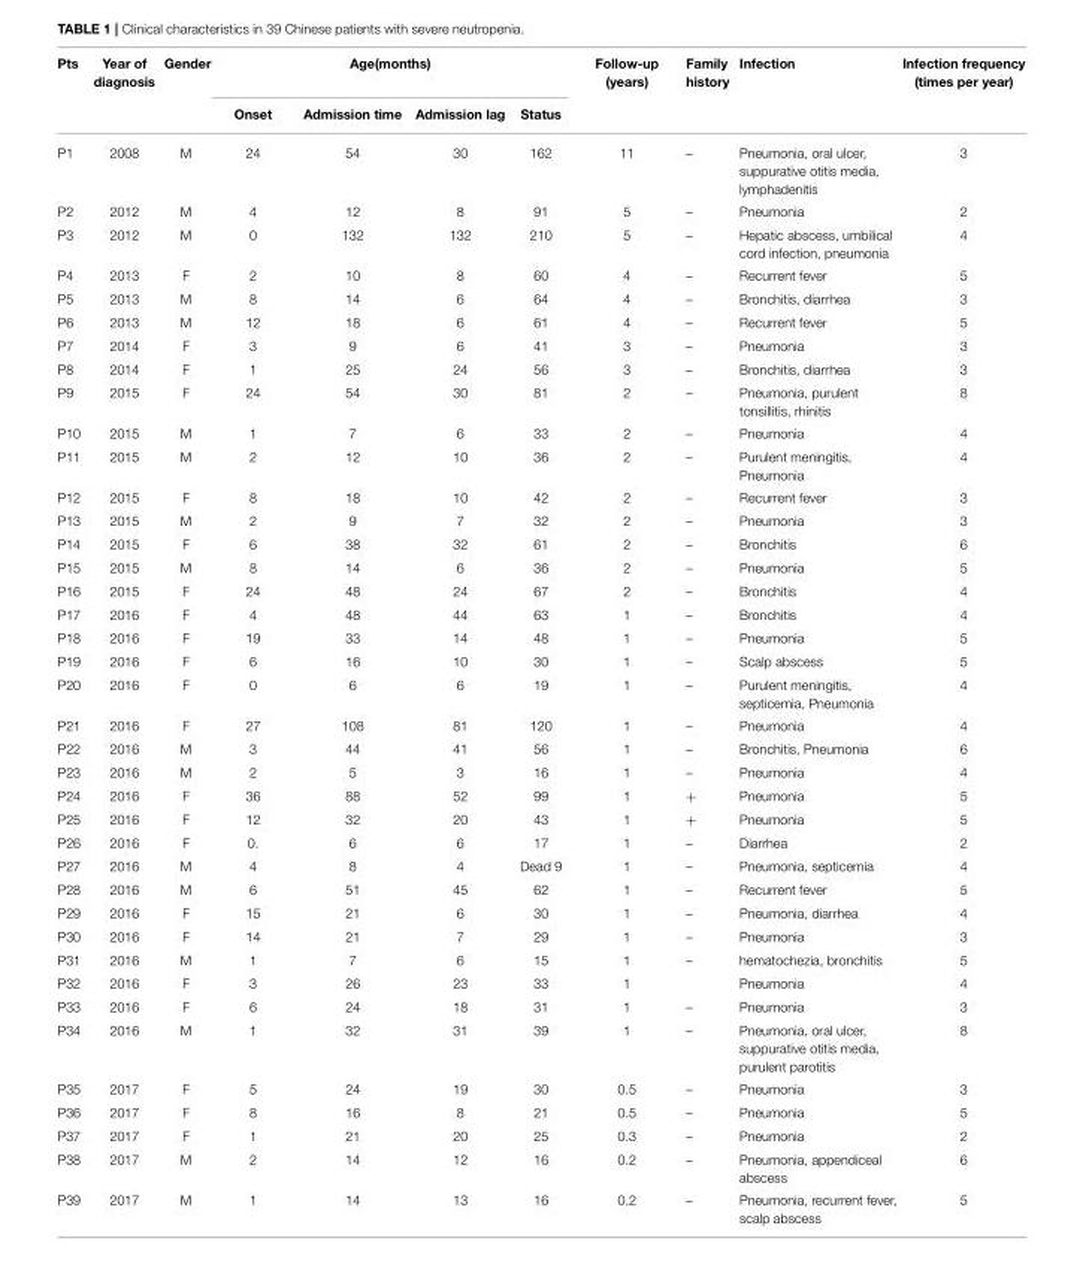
<table><thead><tr><td rowspan="2">Pts</td><td rowspan="2">Year of diagnosis</td><td rowspan="2">Gender</td><td colspan="4">Age(months)</td><td rowspan="2">Follow-up (years)</td><td rowspan="2">Family history</td><td rowspan="2">Infection</td><td rowspan="2">Infection frequency (times per year)</td></tr><tr><td>Onset</td><td>Admission time</td><td>Admission lag</td><td>Status</td></tr></thead><tbody><tr><td>P1</td><td>2008</td><td>M</td><td>24</td><td>54</td><td>30</td><td>162</td><td>11</td><td>–</td><td>Pneumonia, oral ulcer, suppurative otitis media, lymphadenitis</td><td>3</td></tr><tr><td>P2</td><td>2012</td><td>M</td><td>4</td><td>12</td><td>8</td><td>91</td><td>5</td><td>–</td><td>Pneumonia</td><td>2</td></tr><tr><td>P3</td><td>2012</td><td>M</td><td>0</td><td>132</td><td>132</td><td>210</td><td>5</td><td>–</td><td>Hepatic abscess, umbilical cord infection, pneumonia</td><td>4</td></tr><tr><td>P4</td><td>2013</td><td>F</td><td>2</td><td>10</td><td>8</td><td>60</td><td>4</td><td>–</td><td>Recurrent fever</td><td>5</td></tr><tr><td>P5</td><td>2013</td><td>M</td><td>8</td><td>14</td><td>6</td><td>64</td><td>4</td><td>–</td><td>Bronchitis, diarrhea</td><td>3</td></tr><tr><td>P6</td><td>2013</td><td>M</td><td>12</td><td>18</td><td>6</td><td>61</td><td>4</td><td>–</td><td>Recurrent fever</td><td>5</td></tr><tr><td>P7</td><td>2014</td><td>F</td><td>3</td><td>9</td><td>6</td><td>41</td><td>3</td><td>–</td><td>Pneumonia</td><td>3</td></tr><tr><td>P8</td><td>2014</td><td>F</td><td>1</td><td>25</td><td>24</td><td>56</td><td>3</td><td>–</td><td>Bronchitis, diarrhea</td><td>3</td></tr><tr><td>P9</td><td>2015</td><td>F</td><td>24</td><td>54</td><td>30</td><td>81</td><td>2</td><td>–</td><td>Pneumonia, purulent tonsillitis, rhinitis</td><td>8</td></tr><tr><td>P10</td><td>2015</td><td>M</td><td>1</td><td>7</td><td>6</td><td>33</td><td>2</td><td>–</td><td>Pneumonia</td><td>4</td></tr><tr><td>P11</td><td>2015</td><td>M</td><td>2</td><td>12</td><td>10</td><td>36</td><td>2</td><td>–</td><td>Purulent meningitis, Pneumonia</td><td>4</td></tr><tr><td>P12</td><td>2015</td><td>F</td><td>8</td><td>18</td><td>10</td><td>42</td><td>2</td><td>–</td><td>Recurrent fever</td><td>3</td></tr><tr><td>P13</td><td>2015</td><td>M</td><td>2</td><td>9</td><td>7</td><td>32</td><td>2</td><td>–</td><td>Pneumonia</td><td>3</td></tr><tr><td>P14</td><td>2015</td><td>F</td><td>6</td><td>38</td><td>32</td><td>61</td><td>2</td><td>–</td><td>Bronchitis</td><td>6</td></tr><tr><td>P15</td><td>2015</td><td>M</td><td>8</td><td>14</td><td>6</td><td>36</td><td>2</td><td>–</td><td>Pneumonia</td><td>5</td></tr><tr><td>P16</td><td>2015</td><td>F</td><td>24</td><td>48</td><td>24</td><td>67</td><td>2</td><td>–</td><td>Bronchitis</td><td>4</td></tr><tr><td>P17</td><td>2016</td><td>F</td><td>4</td><td>48</td><td>44</td><td>63</td><td>1</td><td>–</td><td>Bronchitis</td><td>4</td></tr><tr><td>P18</td><td>2016</td><td>F</td><td>19</td><td>33</td><td>14</td><td>48</td><td>1</td><td>–</td><td>Pneumonia</td><td>5</td></tr><tr><td>P19</td><td>2016</td><td>F</td><td>6</td><td>16</td><td>10</td><td>30</td><td>1</td><td>–</td><td>Scalp abscess</td><td>5</td></tr><tr><td>P20</td><td>2016</td><td>F</td><td>0</td><td>6</td><td>6</td><td>19</td><td>1</td><td>–</td><td>Purulent meningitis, septicemia, Pneumonia</td><td>4</td></tr><tr><td>P21</td><td>2016</td><td>F</td><td>27</td><td>108</td><td>81</td><td>120</td><td>1</td><td>–</td><td>Pneumonia</td><td>4</td></tr><tr><td>P22</td><td>2016</td><td>M</td><td>3</td><td>44</td><td>41</td><td>56</td><td>1</td><td>–</td><td>Bronchitis, Pneumonia</td><td>6</td></tr><tr><td>P23</td><td>2016</td><td>M</td><td>2</td><td>5</td><td>3</td><td>16</td><td>1</td><td>–</td><td>Pneumonia</td><td>4</td></tr><tr><td>P24</td><td>2016</td><td>F</td><td>36</td><td>88</td><td>52</td><td>99</td><td>1</td><td>+</td><td>Pneumonia</td><td>5</td></tr><tr><td>P25</td><td>2016</td><td>F</td><td>12</td><td>32</td><td>20</td><td>43</td><td>1</td><td>+</td><td>Pneumonia</td><td>5</td></tr><tr><td>P26</td><td>2016</td><td>F</td><td>0.</td><td>6</td><td>6</td><td>17</td><td>1</td><td>–</td><td>Diarrhea</td><td>2</td></tr><tr><td>P27</td><td>2016</td><td>M</td><td>4</td><td>8</td><td>4</td><td>Dead 9</td><td>1</td><td>–</td><td>Pneumonia, septicemia</td><td>4</td></tr><tr><td>P28</td><td>2016</td><td>M</td><td>6</td><td>51</td><td>45</td><td>62</td><td>1</td><td>–</td><td>Recurrent fever</td><td>5</td></tr><tr><td>P29</td><td>2016</td><td>F</td><td>15</td><td>21</td><td>6</td><td>30</td><td>1</td><td>–</td><td>Pneumonia, diarrhea</td><td>4</td></tr><tr><td>P30</td><td>2016</td><td>F</td><td>14</td><td>21</td><td>7</td><td>29</td><td>1</td><td>–</td><td>Pneumonia</td><td>3</td></tr><tr><td>P31</td><td>2016</td><td>M</td><td>1</td><td>7</td><td>6</td><td>15</td><td>1</td><td>–</td><td>hematochezia, bronchitis</td><td>5</td></tr><tr><td>P32</td><td>2016</td><td>F</td><td>3</td><td>26</td><td>23</td><td>33</td><td>1</td><td></td><td>Pneumonia</td><td>4</td></tr><tr><td>P33</td><td>2016</td><td>F</td><td>6</td><td>24</td><td>18</td><td>31</td><td>1</td><td>–</td><td>Pneumonia</td><td>3</td></tr><tr><td>P34</td><td>2016</td><td>M</td><td>1</td><td>32</td><td>31</td><td>39</td><td>1</td><td>–</td><td>Pneumonia, oral ulcer, suppurative otitis media, purulent parotitis</td><td>8</td></tr><tr><td>P35</td><td>2017</td><td>F</td><td>5</td><td>24</td><td>19</td><td>30</td><td>0.5</td><td>–</td><td>Pneumonia</td><td>3</td></tr><tr><td>P36</td><td>2017</td><td>F</td><td>8</td><td>16</td><td>8</td><td>21</td><td>0.5</td><td>–</td><td>Pneumonia</td><td>5</td></tr><tr><td>P37</td><td>2017</td><td>F</td><td>1</td><td>21</td><td>20</td><td>25</td><td>0.3</td><td>–</td><td>Pneumonia</td><td>2</td></tr><tr><td>P38</td><td>2017</td><td>M</td><td>2</td><td>14</td><td>12</td><td>16</td><td>0.2</td><td>–</td><td>Pneumonia, appendiceal abscess</td><td>6</td></tr><tr><td>P39</td><td>2017</td><td>M</td><td>1</td><td>14</td><td>13</td><td>16</td><td>0.2</td><td>–</td><td>Pneumonia, recurrent fever, scalp abscess</td><td>5</td></tr></tbody></table>